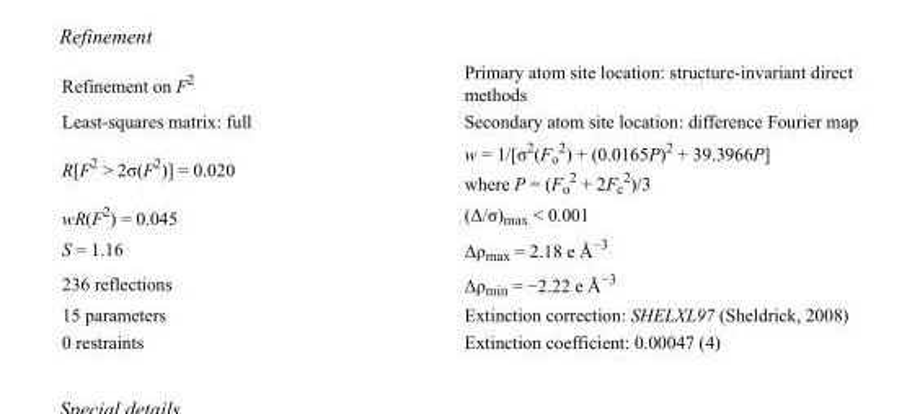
<table><tbody><tr><td>Refinement on F<sup>2</sup></td><td>Primary atom site location: structure-invariant direct methods</td></tr><tr><td>Least-squares matrix: full</td><td>Secondary atom site location: difference Fourier map</td></tr><tr><td>R[F<sup>2</sup> &gt; 2σ(F<sup>2</sup>)] = 0.020</td><td>w = 1/[σ<sup>2</sup>(F<sub>o</sub> <sup>2</sup>) + (0.0165P)<sup>2</sup> + 39.3966P] where P = (F<sub>o</sub> <sup>2</sup> + 2F<sub>c</sub> <sup>2</sup>)/3</td></tr><tr><td>wR(F<sup>2</sup>) = 0.045</td><td>(Δ/σ)<sub>max</sub> &lt; 0.001</td></tr><tr><td>S = 1.16</td><td>Δρ<sub>max</sub> = 2.18 e Å<sup>−3</sup></td></tr><tr><td>236 reflections</td><td>Δρ<sub>min</sub> = −2.22 e Å<sup>−3</sup></td></tr><tr><td>15 parameters</td><td>Extinction correction: SHELXL97 (Sheldrick, 2008)</td></tr><tr><td>0 restraints</td><td>Extinction coefficient: 0.00047 (4)</td></tr></tbody></table>